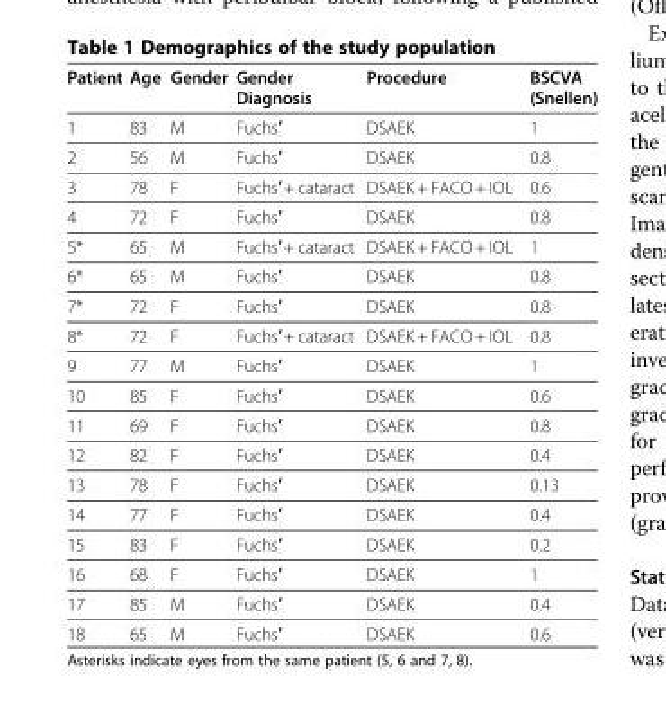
<table><thead><tr><td>Patient</td><td>Age</td><td>Gender</td><td>Gender Diagnosis</td><td>Procedure</td><td>BSCVA (Snellen)</td></tr></thead><tbody><tr><td>1</td><td>83</td><td>M</td><td>Fuchs′</td><td>DSAEK</td><td>1</td></tr><tr><td>2</td><td>56</td><td>M</td><td>Fuchs′</td><td>DSAEK</td><td>0.8</td></tr><tr><td>3</td><td>78</td><td>F</td><td>Fuchs′ + cataract</td><td>DSAEK + FACO + IOL</td><td>0.6</td></tr><tr><td>4</td><td>72</td><td>F</td><td>Fuchs′</td><td>DSAEK</td><td>0.8</td></tr><tr><td>5*</td><td>65</td><td>M</td><td>Fuchs′ + cataract</td><td>DSAEK + FACO + IOL</td><td>1</td></tr><tr><td>6*</td><td>65</td><td>M</td><td>Fuchs′</td><td>DSAEK</td><td>0.8</td></tr><tr><td>7*</td><td>72</td><td>F</td><td>Fuchs′</td><td>DSAEK</td><td>0.8</td></tr><tr><td>8*</td><td>72</td><td>F</td><td>Fuchs′ + cataract</td><td>DSAEK + FACO + IOL</td><td>0.8</td></tr><tr><td>9</td><td>77</td><td>M</td><td>Fuchs′</td><td>DSAEK</td><td>1</td></tr><tr><td>10</td><td>85</td><td>F</td><td>Fuchs′</td><td>DSAEK</td><td>0.6</td></tr><tr><td>11</td><td>69</td><td>F</td><td>Fuchs′</td><td>DSAEK</td><td>0.8</td></tr><tr><td>12</td><td>82</td><td>F</td><td>Fuchs′</td><td>DSAEK</td><td>0.4</td></tr><tr><td>13</td><td>78</td><td>F</td><td>Fuchs′</td><td>DSAEK</td><td>0.13</td></tr><tr><td>14</td><td>77</td><td>F</td><td>Fuchs′</td><td>DSAEK</td><td>0.4</td></tr><tr><td>15</td><td>83</td><td>F</td><td>Fuchs′</td><td>DSAEK</td><td>0.2</td></tr><tr><td>16</td><td>68</td><td>F</td><td>Fuchs′</td><td>DSAEK</td><td>1</td></tr><tr><td>17</td><td>85</td><td>M</td><td>Fuchs′</td><td>DSAEK</td><td>0.4</td></tr><tr><td>18</td><td>65</td><td>M</td><td>Fuchs′</td><td>DSAEK</td><td>0.6</td></tr></tbody></table>